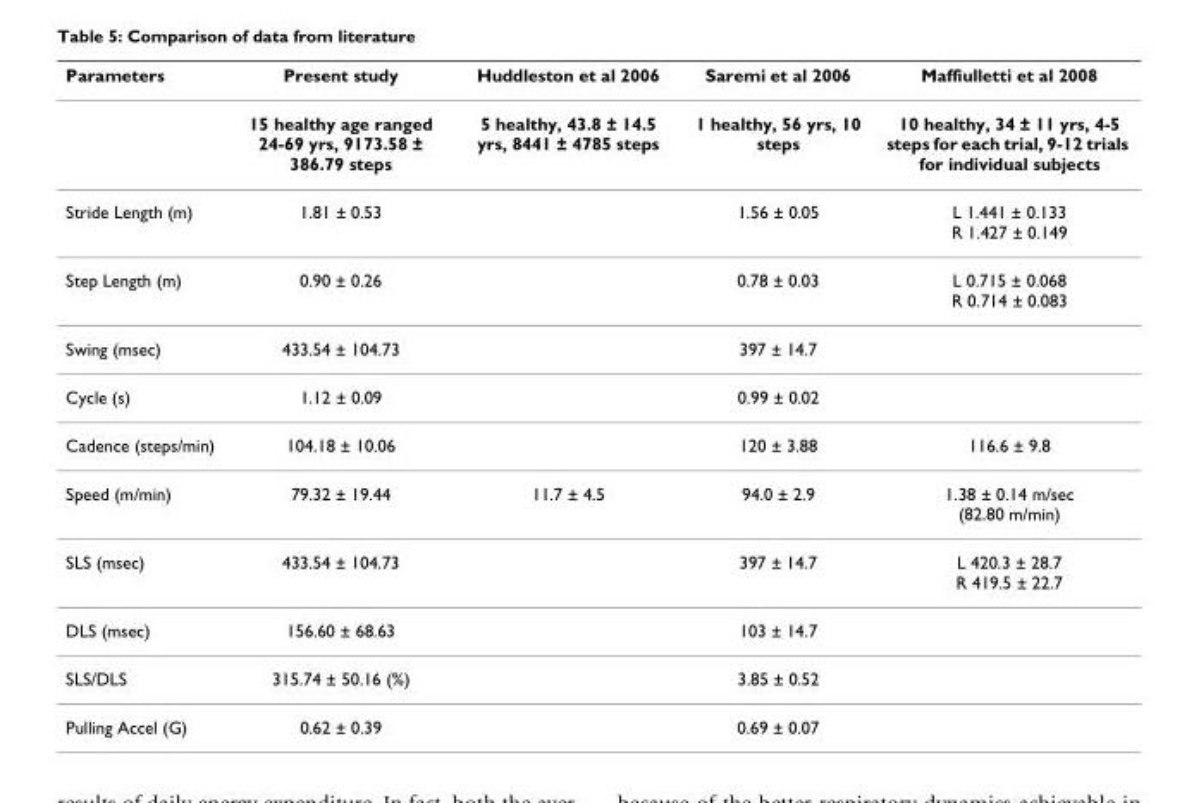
<table><thead><tr><td>Parameters</td><td>Present study</td><td>Huddleston et al 2006</td><td>Saremi et al 2006</td><td>Maffiulletti et al 2008</td></tr></thead><tbody><tr><td></td><td>15 healthy age ranged 24-69 yrs, 9173.58 ± 386.79 steps</td><td>5 healthy, 43.8 ± 14.5 yrs, 8441 ± 4785 steps</td><td>1 healthy, 56 yrs, 10 steps</td><td>10 healthy, 34 ± 11 yrs, 4-5 steps for each trial, 9-12 trials for individual subjects</td></tr><tr><td>Stride Length (m)</td><td>1.81 ± 0.53</td><td></td><td>1.56 ± 0.05</td><td>L 1.441 ± 0.133 R 1.427 ± 0.149</td></tr><tr><td>Step Length (m)</td><td>0.90 ± 0.26</td><td></td><td>0.78 ± 0.03</td><td>L 0.715 ± 0.068 R 0.714 ± 0.083</td></tr><tr><td>Swing (msec)</td><td>433.54 ± 104.73</td><td></td><td>397 ± 14.7</td><td></td></tr><tr><td>Cycle (s)</td><td>1.12 ± 0.09</td><td></td><td>0.99 ± 0.02</td><td></td></tr><tr><td>Cadence (steps/min)</td><td>104.18 ± 10.06</td><td></td><td>120 ± 3.88</td><td>116.6 ± 9.8</td></tr><tr><td>Speed (m/min)</td><td>79.32 ± 19.44</td><td>11.7 ± 4.5</td><td>94.0 ± 2.9</td><td>1.38 ± 0.14 m/sec (82.80 m/min)</td></tr><tr><td>SLS (msec)</td><td>433.54 ± 104.73</td><td></td><td>397 ± 14.7</td><td>L 420.3 ± 28.7 R 419.5 ± 22.7</td></tr><tr><td>DLS (msec)</td><td>156.60 ± 68.63</td><td></td><td>103 ± 14.7</td><td></td></tr><tr><td>SLS/DLS</td><td>315.74 ± 50.16 (%)</td><td></td><td>3.85 ± 0.52</td><td></td></tr><tr><td>Pulling Accel (G)</td><td>0.62 ± 0.39</td><td></td><td>0.69 ± 0.07</td><td></td></tr></tbody></table>